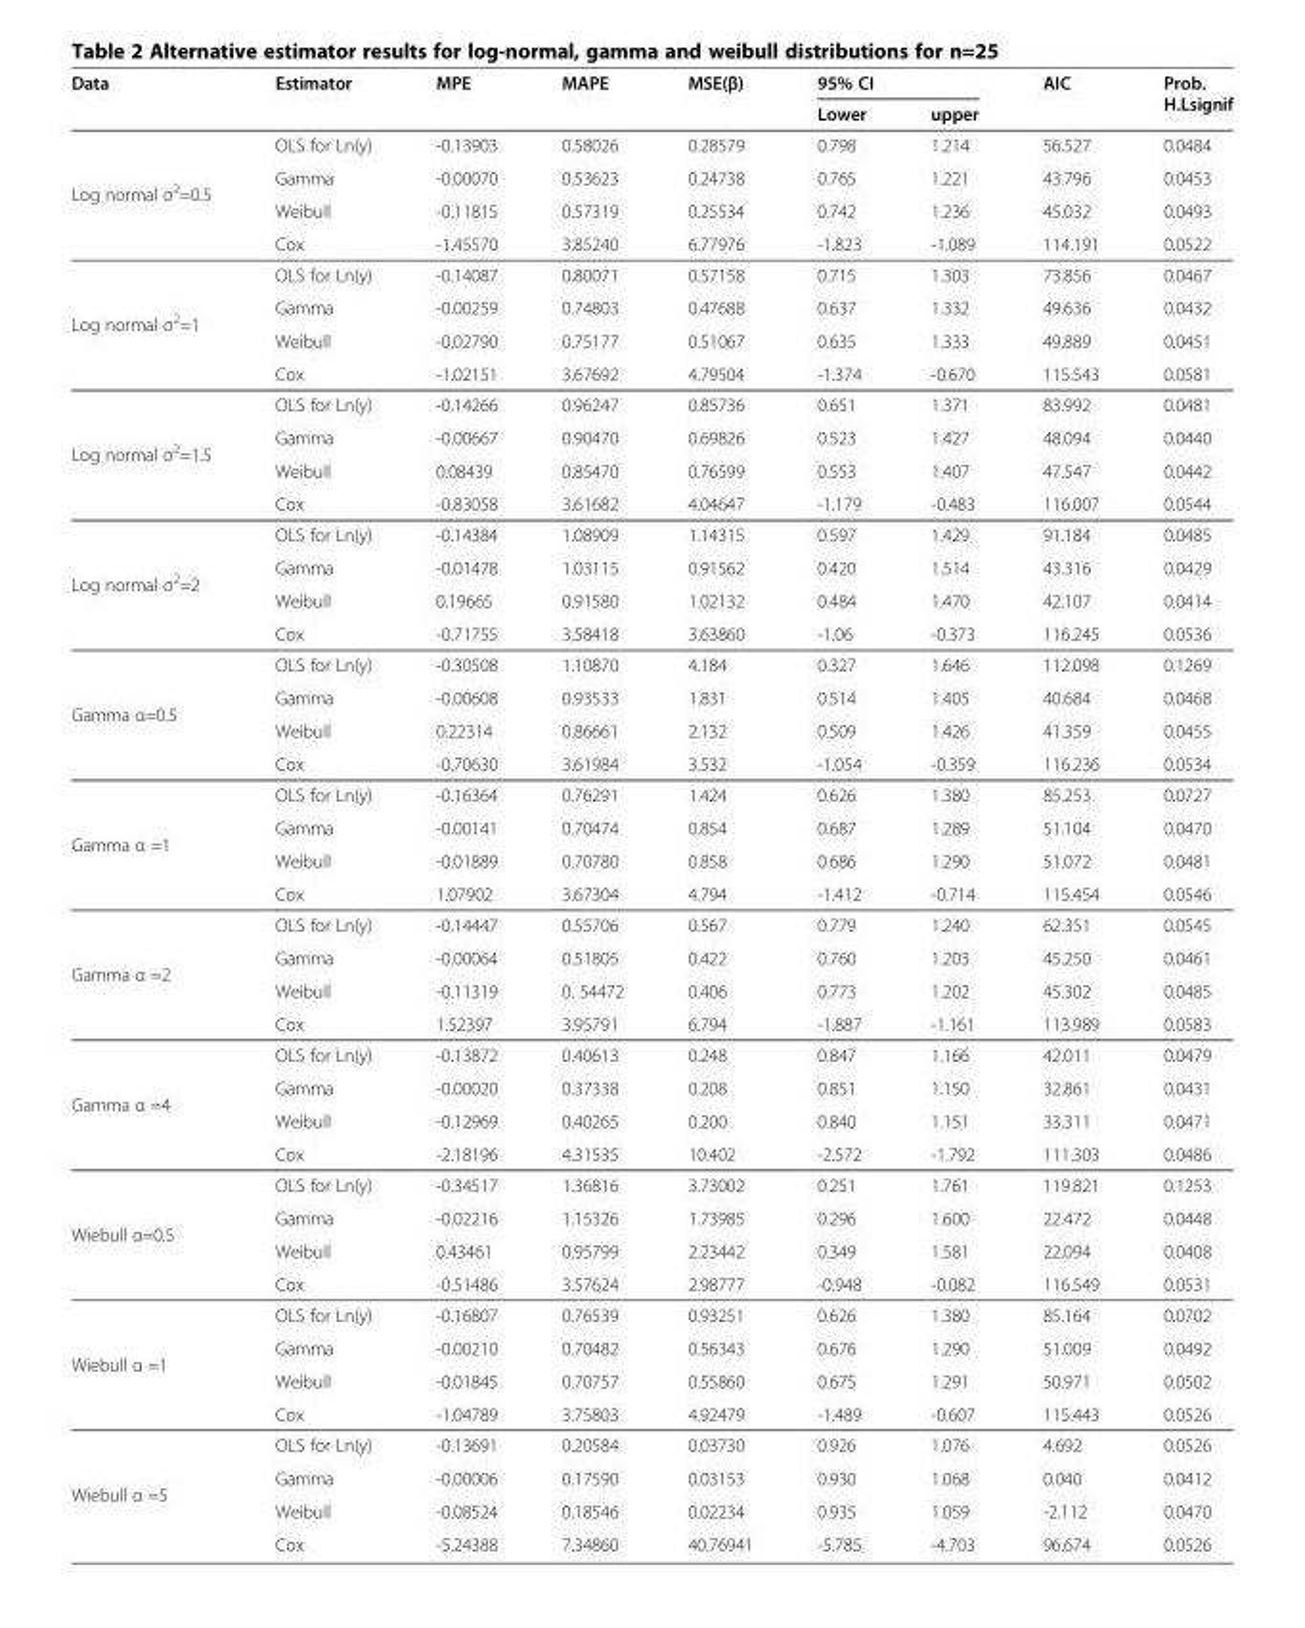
<table><thead><tr><td rowspan="2">Data</td><td rowspan="2">Estimator</td><td rowspan="2">MPE</td><td rowspan="2">MAPE</td><td rowspan="2">MSE(β)</td><td colspan="2">95% CI</td><td rowspan="2">AIC</td><td rowspan="2">Prob. H.Lsignif</td></tr><tr><td>Lower</td><td>upper</td></tr></thead><tbody><tr><td rowspan="4">Log normal σ<sup>2</sup>=0.5</td><td>OLS for Ln(y)</td><td>-0.13903</td><td>0.58026</td><td>0.28579</td><td>0.798</td><td>1.214</td><td>56.527</td><td>0.0484</td></tr><tr><td>Gamma</td><td>-0.00070</td><td>0.53623</td><td>0.24738</td><td>0.765</td><td>1.221</td><td>43.796</td><td>0.0453</td></tr><tr><td>Weibull</td><td>-0.11815</td><td>0.57319</td><td>0.25534</td><td>0.742</td><td>1.236</td><td>45.032</td><td>0.0493</td></tr><tr><td>Cox</td><td>-1.45570</td><td>3.85240</td><td>6.77976</td><td>-1.823</td><td>-1.089</td><td>114.191</td><td>0.0522</td></tr><tr><td rowspan="4">Log normal σ<sup>2</sup>=1</td><td>OLS for Ln(y)</td><td>-0.14087</td><td>0.80071</td><td>0.57158</td><td>0.715</td><td>1.303</td><td>73.856</td><td>0.0467</td></tr><tr><td>Gamma</td><td>-0.00259</td><td>0.74803</td><td>0.47688</td><td>0.637</td><td>1.332</td><td>49.636</td><td>0.0432</td></tr><tr><td>Weibull</td><td>-0.02790</td><td>0.75177</td><td>0.51067</td><td>0.635</td><td>1.333</td><td>49.889</td><td>0.0451</td></tr><tr><td>Cox</td><td>-1.02151</td><td>3.67692</td><td>4.79504</td><td>-1.374</td><td>-0.670</td><td>115.543</td><td>0.0581</td></tr><tr><td rowspan="4">Log normal σ<sup>2</sup>=1.5</td><td>OLS for Ln(y)</td><td>-0.14266</td><td>0.96247</td><td>0.85736</td><td>0.651</td><td>1.371</td><td>83.992</td><td>0.0481</td></tr><tr><td>Gamma</td><td>-0.00667</td><td>0.90470</td><td>0.69826</td><td>0.523</td><td>1.427</td><td>48.094</td><td>0.0440</td></tr><tr><td>Weibull</td><td>0.08439</td><td>0.85470</td><td>0.76599</td><td>0.553</td><td>1.407</td><td>47.547</td><td>0.0442</td></tr><tr><td>Cox</td><td>-0.83058</td><td>3.61682</td><td>4.04647</td><td>-1.179</td><td>-0.483</td><td>116.007</td><td>0.0544</td></tr><tr><td rowspan="4">Log normal σ<sup>2</sup>=2</td><td>OLS for Ln(y)</td><td>-0.14384</td><td>1.08909</td><td>1.14315</td><td>0.597</td><td>1.429</td><td>91.184</td><td>0.0485</td></tr><tr><td>Gamma</td><td>-0.01478</td><td>1.03115</td><td>0.91562</td><td>0.420</td><td>1.514</td><td>43.316</td><td>0.0429</td></tr><tr><td>Weibull</td><td>0.19665</td><td>0.91580</td><td>1.02132</td><td>0.484</td><td>1.470</td><td>42.107</td><td>0.0414</td></tr><tr><td>Cox</td><td>-0.71755</td><td>3.58418</td><td>3.63860</td><td>-1.06</td><td>-0.373</td><td>116.245</td><td>0.0536</td></tr><tr><td rowspan="4">Gamma α=0.5</td><td>OLS for Ln(y)</td><td>-0.30508</td><td>1.10870</td><td>4.184</td><td>0.327</td><td>1.646</td><td>112.098</td><td>0.1269</td></tr><tr><td>Gamma</td><td>-0.00608</td><td>0.93533</td><td>1.831</td><td>0.514</td><td>1.405</td><td>40.684</td><td>0.0468</td></tr><tr><td>Weibull</td><td>0.22314</td><td>0.86661</td><td>2.132</td><td>0.509</td><td>1.426</td><td>41.359</td><td>0.0455</td></tr><tr><td>Cox</td><td>-0.70630</td><td>3.61984</td><td>3.532</td><td>-1.054</td><td>-0.359</td><td>116.236</td><td>0.0534</td></tr><tr><td rowspan="4">Gamma α =1</td><td>OLS for Ln(y)</td><td>-0.16364</td><td>0.76291</td><td>1.424</td><td>0.626</td><td>1.380</td><td>85.253</td><td>0.0727</td></tr><tr><td>Gamma</td><td>-0.00141</td><td>0.70474</td><td>0.854</td><td>0.687</td><td>1.289</td><td>51.104</td><td>0.0470</td></tr><tr><td>Weibull</td><td>-0.01889</td><td>0.70780</td><td>0.858</td><td>0.686</td><td>1.290</td><td>51.072</td><td>0.0481</td></tr><tr><td>Cox</td><td>1.07902</td><td>3.67304</td><td>4.794</td><td>-1.412</td><td>-0.714</td><td>115.454</td><td>0.0546</td></tr><tr><td rowspan="4">Gamma α =2</td><td>OLS for Ln(y)</td><td>-0.14447</td><td>0.55706</td><td>0.567</td><td>0.779</td><td>1.240</td><td>62.351</td><td>0.0545</td></tr><tr><td>Gamma</td><td>-0.00064</td><td>0.51805</td><td>0.422</td><td>0.760</td><td>1.203</td><td>45.250</td><td>0.0461</td></tr><tr><td>Weibull</td><td>-0.11319</td><td>0. 54472</td><td>0.406</td><td>0.773</td><td>1.202</td><td>45.302</td><td>0.0485</td></tr><tr><td>Cox</td><td>1.52397</td><td>3.95791</td><td>6.794</td><td>-1.887</td><td>-1.161</td><td>113.989</td><td>0.0583</td></tr><tr><td rowspan="4">Gamma α =4</td><td>OLS for Ln(y)</td><td>-0.13872</td><td>0.40613</td><td>0.248</td><td>0.847</td><td>1.166</td><td>42.011</td><td>0.0479</td></tr><tr><td>Gamma</td><td>-0.00020</td><td>0.37338</td><td>0.208</td><td>0.851</td><td>1.150</td><td>32.861</td><td>0.0431</td></tr><tr><td>Weibull</td><td>-0.12969</td><td>0.40265</td><td>0.200</td><td>0.840</td><td>1.151</td><td>33.311</td><td>0.0471</td></tr><tr><td>Cox</td><td>-2.18196</td><td>4.31535</td><td>10.402</td><td>-2.572</td><td>-1.792</td><td>111.303</td><td>0.0486</td></tr><tr><td rowspan="4">Wiebull α=0.5</td><td>OLS for Ln(y)</td><td>-0.34517</td><td>1.36816</td><td>3.73002</td><td>0.251</td><td>1.761</td><td>119.821</td><td>0.1253</td></tr><tr><td>Gamma</td><td>-0.02216</td><td>1.15326</td><td>1.73985</td><td>0.296</td><td>1.600</td><td>22.472</td><td>0.0448</td></tr><tr><td>Weibull</td><td>0.43461</td><td>0.95799</td><td>2.23442</td><td>0.349</td><td>1.581</td><td>22.094</td><td>0.0408</td></tr><tr><td>Cox</td><td>-0.51486</td><td>3.57624</td><td>2.98777</td><td>-0.948</td><td>-0.082</td><td>116.549</td><td>0.0531</td></tr><tr><td rowspan="4">Wiebull α =1</td><td>OLS for Ln(y)</td><td>-0.16807</td><td>0.76539</td><td>0.93251</td><td>0.626</td><td>1.380</td><td>85.164</td><td>0.0702</td></tr><tr><td>Gamma</td><td>-0.00210</td><td>0.70482</td><td>0.56343</td><td>0.676</td><td>1.290</td><td>51.009</td><td>0.0492</td></tr><tr><td>Weibull</td><td>-0.01845</td><td>0.70757</td><td>0.55860</td><td>0.675</td><td>1.291</td><td>50.971</td><td>0.0502</td></tr><tr><td>Cox</td><td>-1.04789</td><td>3.75803</td><td>4.92479</td><td>-1.489</td><td>-0.607</td><td>115.443</td><td>0.0526</td></tr><tr><td rowspan="4">Wiebull α =5</td><td>OLS for Ln(y)</td><td>-0.13691</td><td>0.20584</td><td>0.03730</td><td>0.926</td><td>1.076</td><td>4.692</td><td>0.0526</td></tr><tr><td>Gamma</td><td>-0.00006</td><td>0.17590</td><td>0.03153</td><td>0.930</td><td>1.068</td><td>0.040</td><td>0.0412</td></tr><tr><td>Weibull</td><td>-0.08524</td><td>0.18546</td><td>0.02234</td><td>0.935</td><td>1.059</td><td>-2.112</td><td>0.0470</td></tr><tr><td>Cox</td><td>-5.24388</td><td>7.34860</td><td>40.76941</td><td>-5.785</td><td>-4.703</td><td>96.674</td><td>0.0526</td></tr></tbody></table>